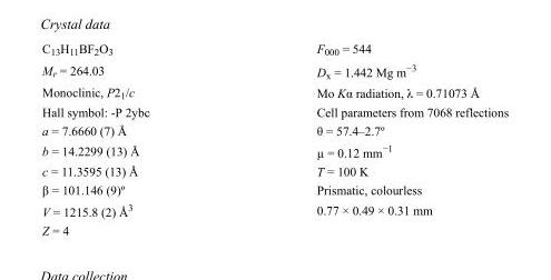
<table><tbody><tr><td>C<sub>13</sub>H<sub>11</sub>BF<sub>2</sub>O<sub>3</sub></td><td>F000 = 544</td></tr><tr><td>M<sub>r</sub> = 264.03</td><td>D<sub>x</sub> = 1.442 Mg m<sup>−3</sup></td></tr><tr><td>Monoclinic, P2<sub>1</sub>/c</td><td>Mo Kα radiation, λ = 0.71073 Å</td></tr><tr><td>Hall symbol: -P 2ybc</td><td>Cell parameters from 7068 reflections</td></tr><tr><td>a = 7.6660 (7) Å</td><td>θ = 57.4–2.7º</td></tr><tr><td>b = 14.2299 (13) Å</td><td>µ = 0.12 mm<sup>−1</sup></td></tr><tr><td>c = 11.3595 (13) Å</td><td>T = 100 K</td></tr><tr><td>β = 101.146 (9)º</td><td>Prismatic, colourless</td></tr><tr><td>V = 1215.8 (2) Å<sup>3</sup></td><td>0.77 × 0.49 × 0.31 mm</td></tr><tr><td>Z = 4</td><td></td></tr></tbody></table>